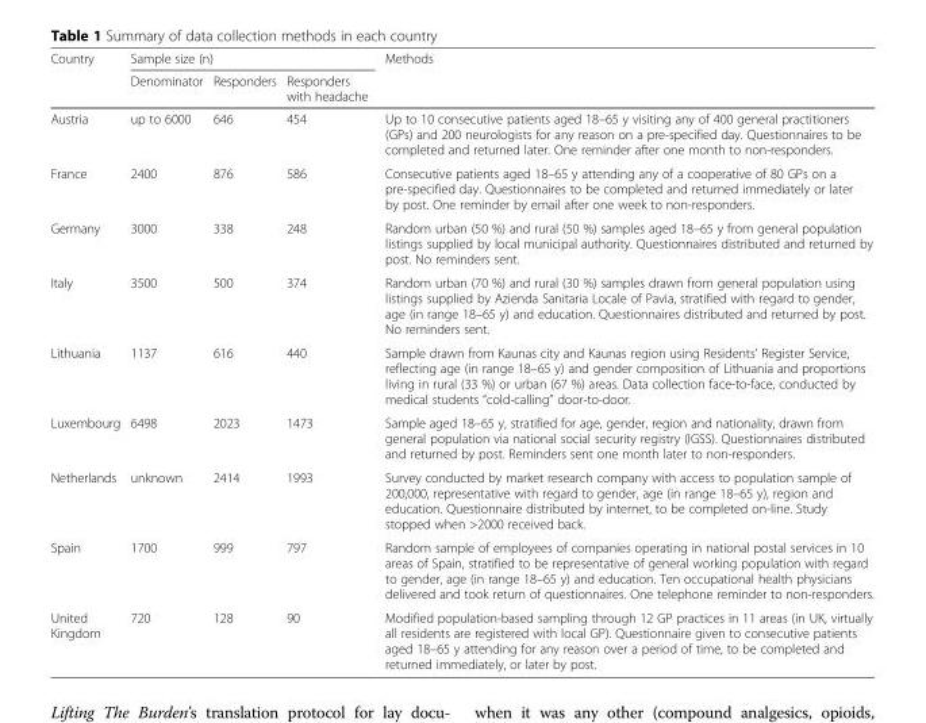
<table><thead><tr><td rowspan="2">Country</td><td colspan="3">Sample size (n)</td><td rowspan="2">Methods</td></tr><tr><td>Denominator</td><td>Responders</td><td>Responders with headache</td></tr></thead><tbody><tr><td>Austria</td><td>up to 6000</td><td>646</td><td>454</td><td>Up to 10 consecutive patients aged 18–65 y visiting any of 400 general practitioners (GPs) and 200 neurologists for any reason on a pre-specified day. Questionnaires to be completed and returned later. One reminder after one month to non-responders.</td></tr><tr><td>France</td><td>2400</td><td>876</td><td>586</td><td>Consecutive patients aged 18–65 y attending any of a cooperative of 80 GPs on a pre-specified day. Questionnaires to be completed and returned immediately or later by post. One reminder by email after one week to non-responders.</td></tr><tr><td>Germany</td><td>3000</td><td>338</td><td>248</td><td>Random urban (50 %) and rural (50 %) samples aged 18–65 y from general population listings supplied by local municipal authority. Questionnaires distributed and returned by post. No reminders sent.</td></tr><tr><td>Italy</td><td>3500</td><td>500</td><td>374</td><td>Random urban (70 %) and rural (30 %) samples drawn from general population using listings supplied by Azienda Sanitaria Locale of Pavia, stratified with regard to gender, age (in range 18–65 y) and education. Questionnaires distributed and returned by post. No reminders sent.</td></tr><tr><td>Lithuania</td><td>1137</td><td>616</td><td>440</td><td>Sample drawn from Kaunas city and Kaunas region using Residents’ Register Service, reflecting age (in range 18–65 y) and gender composition of Lithuania and proportions living in rural (33 %) or urban (67 %) areas. Data collection face-to-face, conducted by medical students “cold-calling” door-to-door.</td></tr><tr><td>Luxembourg</td><td>6498</td><td>2023</td><td>1473</td><td>Sample aged 18–65 y, stratified for age, gender, region and nationality, drawn from general population via national social security registry (IGSS). Questionnaires distributed and returned by post. Reminders sent one month later to non-responders.</td></tr><tr><td>Netherlands</td><td>unknown</td><td>2414</td><td>1993</td><td>Survey conducted by market research company with access to population sample of 200,000, representative with regard to gender, age (in range 18–65 y), region and education. Questionnaire distributed by internet, to be completed on-line. Study stopped when &gt;2000 received back.</td></tr><tr><td>Spain</td><td>1700</td><td>999</td><td>797</td><td>Random sample of employees of companies operating in national postal services in 10 areas of Spain, stratified to be representative of general working population with regard to gender, age (in range 18–65 y) and education. Ten occupational health physicians delivered and took return of questionnaires. One telephone reminder to non-responders.</td></tr><tr><td>United Kingdom</td><td>720</td><td>128</td><td>90</td><td>Modified population-based sampling through 12 GP practices in 11 areas (in UK, virtually all residents are registered with local GP). Questionnaire given to consecutive patients aged 18–65 y attending for any reason over a period of time, to be completed and returned immediately, or later by post.</td></tr></tbody></table>